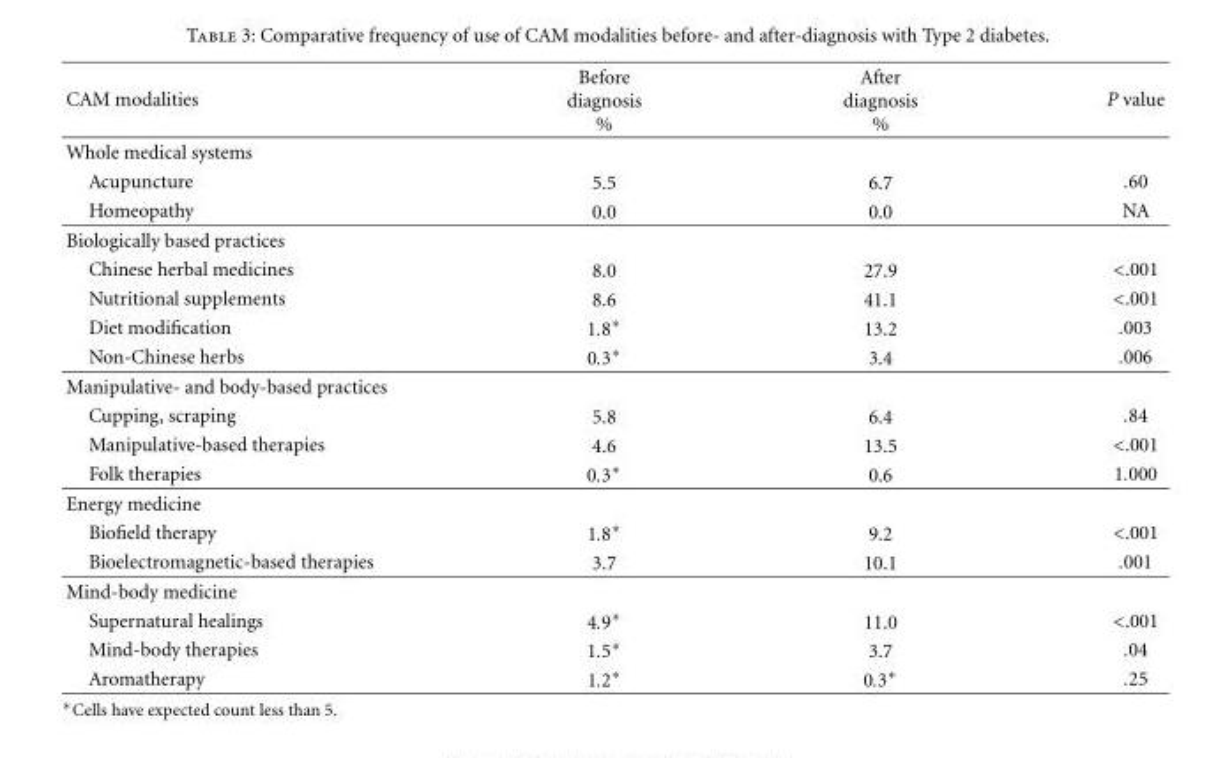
<table><thead><tr><td>CAM modalities</td><td>Before diagnosis %</td><td>After diagnosis %</td><td>P value</td></tr></thead><tbody><tr><td colspan="4">Whole medical systems</td></tr><tr><td>Acupuncture</td><td>5.5</td><td>6.7</td><td>.60</td></tr><tr><td>Homeopathy</td><td>0.0</td><td>0.0</td><td>NA</td></tr><tr><td colspan="4">Biologically based practices</td></tr><tr><td>Chinese herbal medicines</td><td>8.0</td><td>27.9</td><td>&lt;.001</td></tr><tr><td>Nutritional supplements</td><td>8.6</td><td>41.1</td><td>&lt;.001</td></tr><tr><td>Diet modification</td><td>1.8∗</td><td>13.2</td><td>.003</td></tr><tr><td>Non-Chinese herbs</td><td>0.3∗</td><td>3.4</td><td>.006</td></tr><tr><td colspan="4">Manipulative- and body-based practices</td></tr><tr><td>Cupping, scraping</td><td>5.8</td><td>6.4</td><td>.84</td></tr><tr><td>Manipulative-based therapies</td><td>4.6</td><td>13.5</td><td>&lt;.001</td></tr><tr><td>Folk therapies</td><td>0.3∗</td><td>0.6</td><td>1.000</td></tr><tr><td colspan="4">Energy medicine</td></tr><tr><td>Biofield therapy</td><td>1.8∗</td><td>9.2</td><td>&lt;.001</td></tr><tr><td>Bioelectromagnetic-based therapies</td><td>3.7</td><td>10.1</td><td>.001</td></tr><tr><td colspan="4">Mind-body medicine</td></tr><tr><td>Supernatural healings</td><td>4.9∗</td><td>11.0</td><td>&lt;.001</td></tr><tr><td>Mind-body therapies</td><td>1.5∗</td><td>3.7</td><td>.04</td></tr><tr><td>Aromatherapy</td><td>1.2∗</td><td>0.3∗</td><td>.25</td></tr></tbody></table>